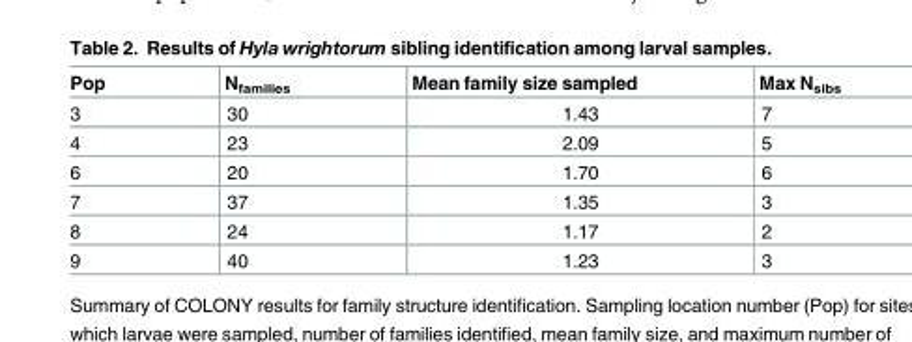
<table><thead><tr><td>Pop</td><td>N<sub>families</sub></td><td>Mean family size sampled</td><td>Max N<sub>sibs</sub></td></tr></thead><tbody><tr><td>3</td><td>30</td><td>1.43</td><td>7</td></tr><tr><td>4</td><td>23</td><td>2.09</td><td>5</td></tr><tr><td>6</td><td>20</td><td>1.70</td><td>6</td></tr><tr><td>7</td><td>37</td><td>1.35</td><td>3</td></tr><tr><td>8</td><td>24</td><td>1.17</td><td>2</td></tr><tr><td>9</td><td>40</td><td>1.23</td><td>3</td></tr></tbody></table>